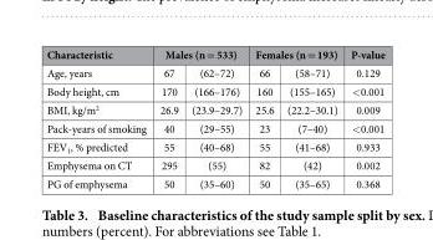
<table><thead><tr><td rowspan="2">Characteristic Age, years</td><td colspan="2">Males (n = 533)</td><td colspan="2">Females (n = 193)</td><td rowspan="2">P-value 0.129</td></tr><tr><td>67</td><td>(62–72)</td><td>66</td><td>(58–71)</td></tr></thead><tbody><tr><td>Body height, cm</td><td>170</td><td>(166–176)</td><td>160</td><td>(155–165)</td><td>&lt; 0.001</td></tr><tr><td>BMI, kg/m<sup>2</sup></td><td>26.9</td><td>(23.9–29.7)</td><td>25.6</td><td>(22.2–30.1)</td><td>0.009</td></tr><tr><td>Pack-years of smoking</td><td>40</td><td>(29–55)</td><td>23</td><td>(7–40)</td><td>&lt; 0.001</td></tr><tr><td>FEV<sub>1</sub>, % predicted</td><td>55</td><td>(40–68)</td><td>55</td><td>(41–68)</td><td>0.933</td></tr><tr><td>Emphysema on CT</td><td>295</td><td>(55)</td><td>82</td><td>(42)</td><td>0.002</td></tr><tr><td>PG of emphysema</td><td>50</td><td>(35–60)</td><td>50</td><td>(35–65)</td><td>0.368</td></tr></tbody></table>